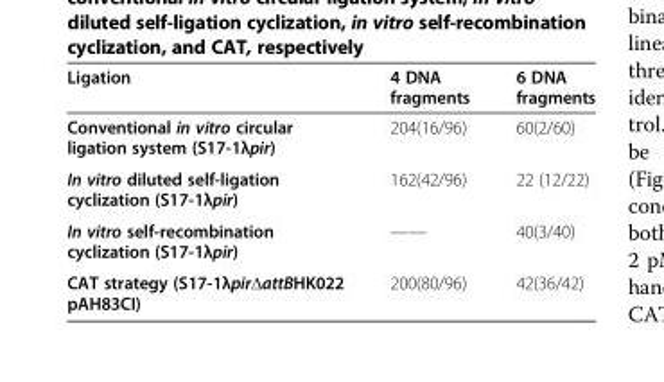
<table><thead><tr><td>Ligation</td><td>4 DNA fragments</td><td>6 DNA fragments</td></tr></thead><tbody><tr><td>Conventional in vitro circular ligation system (S17-1λpir)</td><td>204(16/96)</td><td>60(2/60)</td></tr><tr><td>In vitro diluted self-ligation cyclization (S17-1λpir)</td><td>162(42/96)</td><td>22 (12/22)</td></tr><tr><td>In vitro self-recombination cyclization (S17-1λpir)</td><td>——</td><td>40(3/40)</td></tr><tr><td>CAT strategy (S17-1λpirΔattBHK022 pAH83CI)</td><td>200(80/96)</td><td>42(36/42)</td></tr></tbody></table>